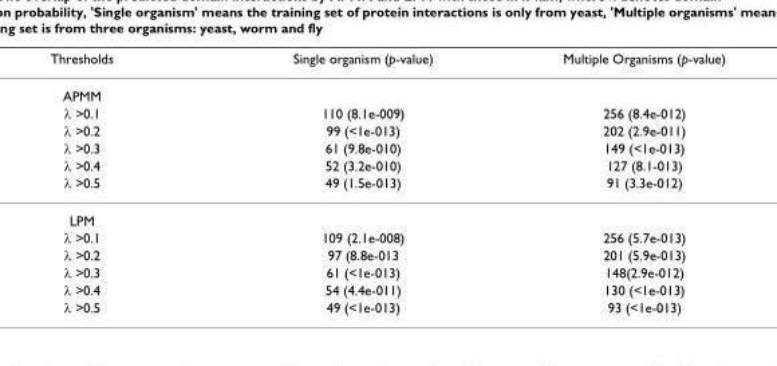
<table><thead><tr><td>Thresholds</td><td>Single organism (p-value)</td><td>Multiple Organisms (p-value)</td></tr></thead><tbody><tr><td colspan="3">APMM</td></tr><tr><td>λ &gt;0.1</td><td>110 (8.1e-009)</td><td>256 (8.4e-012)</td></tr><tr><td>λ &gt;0.2</td><td>99 (&lt;1e-013)</td><td>202 (2.9e-011)</td></tr><tr><td>λ &gt;0.3</td><td>61 (9.8e-010)</td><td>149 (&lt;1e-013)</td></tr><tr><td>λ &gt;0.4</td><td>52 (3.2e-010)</td><td>127 (8.1-013)</td></tr><tr><td>λ &gt;0.5</td><td>49 (1.5e-013)</td><td>91 (3.3e-012)</td></tr><tr><td colspan="3">LPM</td></tr><tr><td>λ &gt;0.1</td><td>109 (2.1e-008)</td><td>256 (5.7e-013)</td></tr><tr><td>λ &gt;0.2</td><td>97 (8.8e-013</td><td>201 (5.9e-013)</td></tr><tr><td>λ &gt;0.3</td><td>61 (&lt;1e-013)</td><td>148(2.9e-012)</td></tr><tr><td>λ &gt;0.4</td><td>54 (4.4e-011)</td><td>130 (&lt;1e-013)</td></tr><tr><td>λ &gt;0.5</td><td>49 (&lt;1e-013)</td><td>93 (&lt;1e-013)</td></tr></tbody></table>